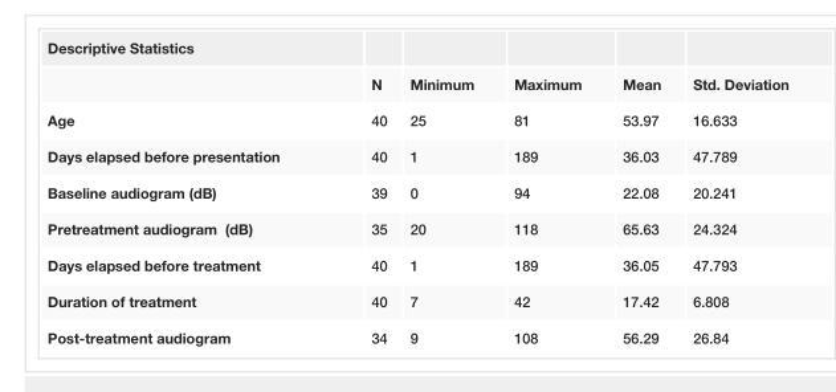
<table><tbody><tr><td colspan="6">Descriptive Statistics</td></tr><tr><td></td><td>N</td><td>Minimum</td><td>Maximum</td><td>Mean</td><td>Std. Deviation</td></tr><tr><td>Age</td><td>40</td><td>25</td><td>81</td><td>53.97</td><td>16.633</td></tr><tr><td>Days elapsed before presentation</td><td>40</td><td>1</td><td>189</td><td>36.03</td><td>47.789</td></tr><tr><td>Baseline audiogram (dB)</td><td>39</td><td>0</td><td>94</td><td>22.08</td><td>20.241</td></tr><tr><td>Pretreatment audiogram (dB)</td><td>35</td><td>20</td><td>118</td><td>65.63</td><td>24.324</td></tr><tr><td>Days elapsed before treatment</td><td>40</td><td>1</td><td>189</td><td>36.05</td><td>47.793</td></tr><tr><td>Duration of treatment</td><td>40</td><td>7</td><td>42</td><td>17.42</td><td>6.808</td></tr><tr><td>Post-treatment audiogram</td><td>34</td><td>9</td><td>108</td><td>56.29</td><td>26.84</td></tr></tbody></table>